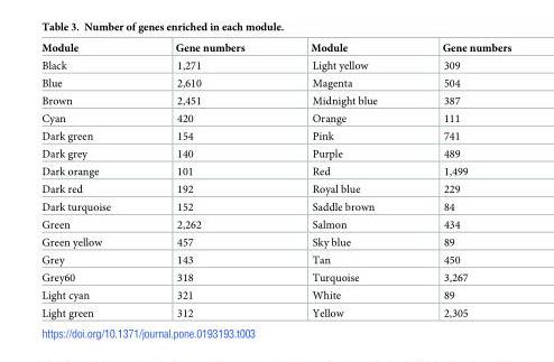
<table><thead><tr><td>Module</td><td>Gene numbers</td><td>Module</td><td>Gene numbers</td></tr></thead><tbody><tr><td>Black</td><td>1,271</td><td>Light yellow</td><td>309</td></tr><tr><td>Blue</td><td>2,610</td><td>Magenta</td><td>504</td></tr><tr><td>Brown</td><td>2,451</td><td>Midnight blue</td><td>387</td></tr><tr><td>Cyan</td><td>420</td><td>Orange</td><td>111</td></tr><tr><td>Dark green</td><td>154</td><td>Pink</td><td>741</td></tr><tr><td>Dark grey</td><td>140</td><td>Purple</td><td>489</td></tr><tr><td>Dark orange</td><td>101</td><td>Red</td><td>1,499</td></tr><tr><td>Dark red</td><td>192</td><td>Royal blue</td><td>229</td></tr><tr><td>Dark turquoise</td><td>152</td><td>Saddle brown</td><td>84</td></tr><tr><td>Green</td><td>2,262</td><td>Salmon</td><td>434</td></tr><tr><td>Green yellow</td><td>457</td><td>Sky blue</td><td>89</td></tr><tr><td>Grey</td><td>143</td><td>Tan</td><td>450</td></tr><tr><td>Grey60</td><td>318</td><td>Turquoise</td><td>3,267</td></tr><tr><td>Light cyan</td><td>321</td><td>White</td><td>89</td></tr><tr><td>Light green</td><td>312</td><td>Yellow</td><td>2,305</td></tr></tbody></table>